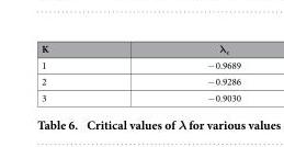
<table><thead><tr><td>K</td><td>λ<sub>c</sub></td></tr></thead><tbody><tr><td>1</td><td>− 0.9689</td></tr><tr><td>2</td><td>− 0.9286</td></tr><tr><td>3</td><td>− 0.9030</td></tr></tbody></table>